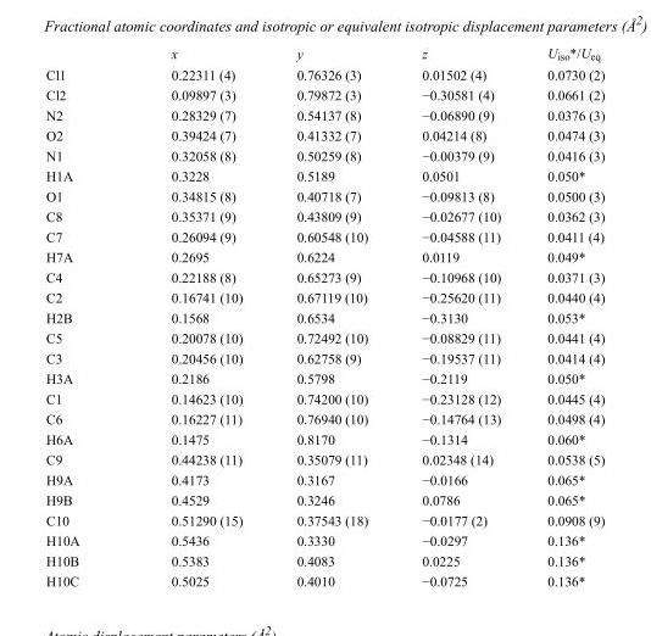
<table><thead><tr><td></td><td>x</td><td>y</td><td>z</td><td>U<sub>iso</sub>*/U<sub>eq</sub></td></tr></thead><tbody><tr><td>Cl1</td><td>0.22311 (4)</td><td>0.76326 (3)</td><td>0.01502 (4)</td><td>0.0730 (2)</td></tr><tr><td>Cl2</td><td>0.09897 (3)</td><td>0.79872 (3)</td><td>−0.30581 (4)</td><td>0.0661 (2)</td></tr><tr><td>N2</td><td>0.28329 (7)</td><td>0.54137 (8)</td><td>−0.06890 (9)</td><td>0.0376 (3)</td></tr><tr><td>O2</td><td>0.39424 (7)</td><td>0.41332 (7)</td><td>0.04214 (8)</td><td>0.0474 (3)</td></tr><tr><td>N1</td><td>0.32058 (8)</td><td>0.50259 (8)</td><td>−0.00379 (9)</td><td>0.0416 (3)</td></tr><tr><td>H1A</td><td>0.3228</td><td>0.5189</td><td>0.0501</td><td>0.050*</td></tr><tr><td>O1</td><td>0.34815 (8)</td><td>0.40718 (7)</td><td>−0.09813 (8)</td><td>0.0500 (3)</td></tr><tr><td>C8</td><td>0.35371 (9)</td><td>0.43809 (9)</td><td>−0.02677 (10)</td><td>0.0362 (3)</td></tr><tr><td>C7</td><td>0.26094 (9)</td><td>0.60548 (10)</td><td>−0.04588 (11)</td><td>0.0411 (4)</td></tr><tr><td>H7A</td><td>0.2695</td><td>0.6224</td><td>0.0119</td><td>0.049*</td></tr><tr><td>C4</td><td>0.22188 (8)</td><td>0.65273 (9)</td><td>−0.10968 (10)</td><td>0.0371 (3)</td></tr><tr><td>C2</td><td>0.16741 (10)</td><td>0.67119 (10)</td><td>−0.25620 (11)</td><td>0.0440 (4)</td></tr><tr><td>H2B</td><td>0.1568</td><td>0.6534</td><td>−0.3130</td><td>0.053*</td></tr><tr><td>C5</td><td>0.20078 (10)</td><td>0.72492 (10)</td><td>−0.08829 (11)</td><td>0.0441 (4)</td></tr><tr><td>C3</td><td>0.20456 (10)</td><td>0.62758 (9)</td><td>−0.19537 (11)</td><td>0.0414 (4)</td></tr><tr><td>H3A</td><td>0.2186</td><td>0.5798</td><td>−0.2119</td><td>0.050*</td></tr><tr><td>C1</td><td>0.14623 (10)</td><td>0.74200 (10)</td><td>−0.23128 (12)</td><td>0.0445 (4)</td></tr><tr><td>C6</td><td>0.16227 (11)</td><td>0.76940 (10)</td><td>−0.14764 (13)</td><td>0.0498 (4)</td></tr><tr><td>H6A</td><td>0.1475</td><td>0.8170</td><td>−0.1314</td><td>0.060*</td></tr><tr><td>C9</td><td>0.44238 (11)</td><td>0.35079 (11)</td><td>0.02348 (14)</td><td>0.0538 (5)</td></tr><tr><td>H9A</td><td>0.4173</td><td>0.3167</td><td>−0.0166</td><td>0.065*</td></tr><tr><td>H9B</td><td>0.4529</td><td>0.3246</td><td>0.0786</td><td>0.065*</td></tr><tr><td>C10</td><td>0.51290 (15)</td><td>0.37543 (18)</td><td>−0.0177 (2)</td><td>0.0908 (9)</td></tr><tr><td>H10A</td><td>0.5436</td><td>0.3330</td><td>−0.0297</td><td>0.136*</td></tr><tr><td>H10B</td><td>0.5383</td><td>0.4083</td><td>0.0225</td><td>0.136*</td></tr><tr><td>H10C</td><td>0.5025</td><td>0.4010</td><td>−0.0725</td><td>0.136*</td></tr></tbody></table>